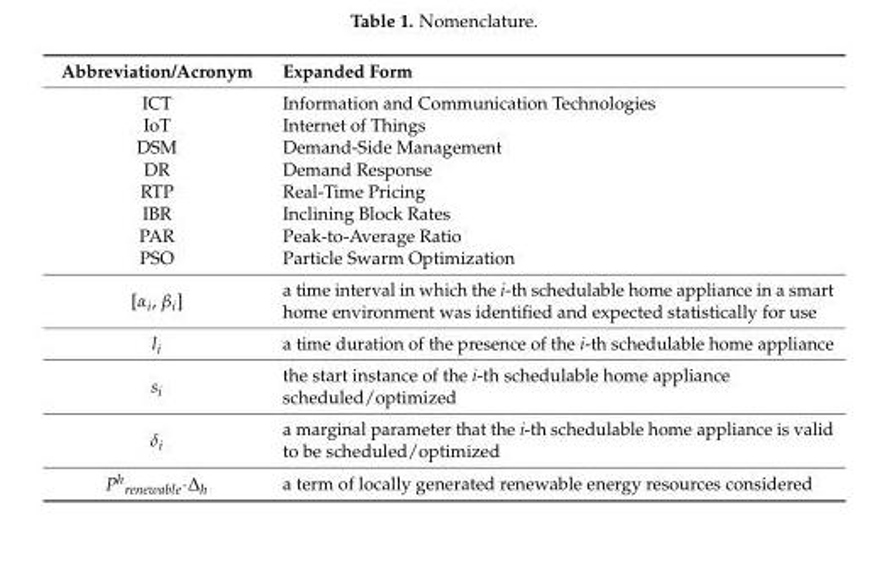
<table><thead><tr><td>Abbreviation/Acronym</td><td>Expanded Form</td></tr></thead><tbody><tr><td>ICT</td><td>Information and Communication Technologies</td></tr><tr><td>IoT</td><td>Internet of Things</td></tr><tr><td>DSM</td><td>Demand-Side Management</td></tr><tr><td>DR</td><td>Demand Response</td></tr><tr><td>RTP</td><td>Real-Time Pricing</td></tr><tr><td>IBR</td><td>Inclining Block Rates</td></tr><tr><td>PAR</td><td>Peak-to-Average Ratio</td></tr><tr><td>PSO</td><td>Particle Swarm Optimization</td></tr><tr><td>[α<sub>i</sub>, β<sub>i</sub>]</td><td>a time interval in which the i-th schedulable home appliance in a smart home environment was identified and expected statistically for use</td></tr><tr><td>l<sub>i</sub></td><td>a time duration of the presence of the i-th schedulable home appliance</td></tr><tr><td>s<sub>i</sub></td><td>the start instance of the i-th schedulable home appliance scheduled/optimized</td></tr><tr><td>δ<sub>i</sub></td><td>a marginal parameter that the i-th schedulable home appliance is valid to be scheduled/optimized</td></tr><tr><td>Phrenewable·∆h</td><td>a term of locally generated renewable energy resources considered</td></tr></tbody></table>